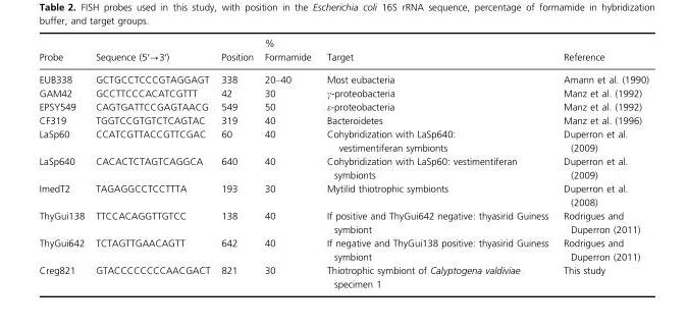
<table><thead><tr><td>Probe</td><td>Sequence (5′→3′)</td><td>Position</td><td>% Formamide</td><td>Target</td><td>Reference</td></tr></thead><tbody><tr><td>EUB338</td><td>GCTGCCTCCCGTAGGAGT</td><td>338</td><td>20–40</td><td>Most eubacteria</td><td>Amann et al. (1990)</td></tr><tr><td>GAM42</td><td>GCCTTCCCACATCGTTT</td><td>42</td><td>30</td><td>γ-proteobacteria</td><td>Manz et al. (1992)</td></tr><tr><td>EPSY549</td><td>CAGTGATTCCGAGTAACG</td><td>549</td><td>50</td><td>ε-proteobacteria</td><td>Manz et al. (1992)</td></tr><tr><td>CF319</td><td>TGGTCCGTGTCTCAGTAC</td><td>319</td><td>40</td><td>Bacteroidetes</td><td>Manz et al. (1996)</td></tr><tr><td>LaSp60</td><td>CCATCGTTACCGTTCGAC</td><td>60</td><td>40</td><td>Cohybridization with LaSp640: vestimentiferan symbionts</td><td>Duperron et al. (2009)</td></tr><tr><td>LaSp640</td><td>CACACTCTAGTCAGGCA</td><td>640</td><td>40</td><td>Cohybridization with LaSp60: vestimentiferan symbionts</td><td>Duperron et al. (2009)</td></tr><tr><td>ImedT2</td><td>TAGAGGCCTCCTTTA</td><td>193</td><td>30</td><td>Mytilid thiotrophic symbionts</td><td>Duperron et al. (2008)</td></tr><tr><td>ThyGui138</td><td>TTCCACAGGTTGTCC</td><td>138</td><td>40</td><td>If positive and ThyGui642 negative: thyasirid Guiness symbiont</td><td>Rodrigues and Duperron (2011)</td></tr><tr><td>ThyGui642</td><td>TCTAGTTGAACAGTT</td><td>642</td><td>40</td><td>If negative and ThyGui138 positive: thyasirid Guiness symbiont</td><td>Rodrigues and Duperron (2011)</td></tr><tr><td>Creg821</td><td>GTACCCCCCCCAACGACT</td><td>821</td><td>30</td><td>Thiotrophic symbiont of Calyptogena valdiviae specimen 1</td><td>This study</td></tr></tbody></table>